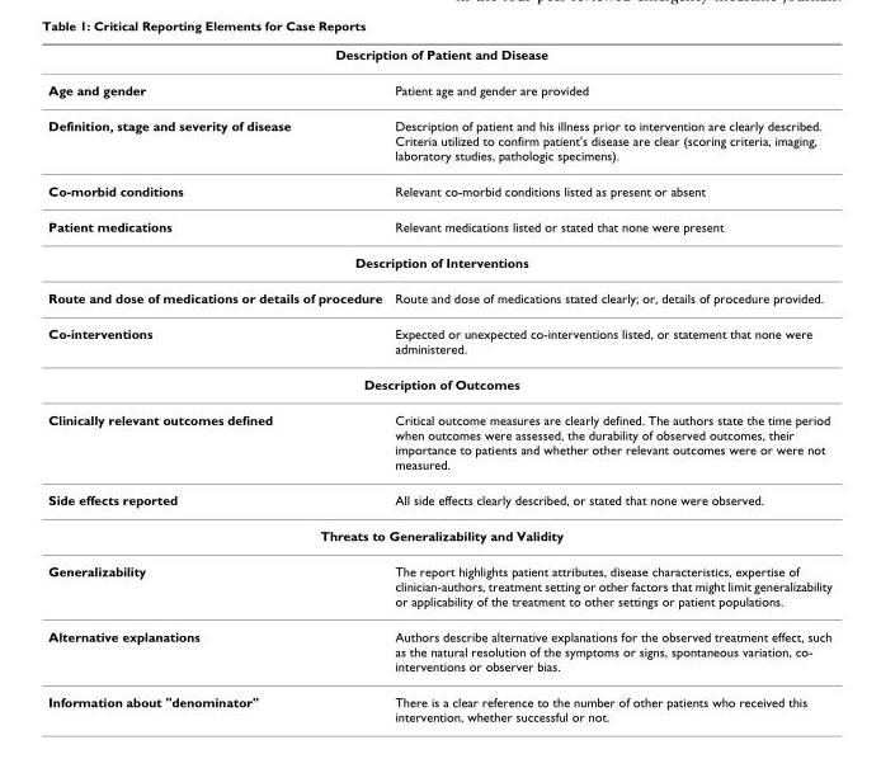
<table><thead><tr><td colspan="2">Description of Patient and Disease</td></tr><tr><td>Age and gender</td><td>Patient age and gender are provided</td></tr></thead><tbody><tr><td>Definition, stage and severity of disease</td><td>Description of patient and his illness prior to intervention are clearly described. Criteria utilized to confirm patient&#x27;s disease are clear (scoring criteria, imaging, laboratory studies, pathologic specimens).</td></tr><tr><td>Co-morbid conditions</td><td>Relevant co-morbid conditions listed as present or absent</td></tr><tr><td>Patient medications</td><td>Relevant medications listed or stated that none were present</td></tr><tr><td colspan="2">Description of Interventions</td></tr><tr><td>Route and dose of medications or details of procedure</td><td>Route and dose of medications stated clearly; or, details of procedure provided.</td></tr><tr><td>Co-interventions</td><td>Expected or unexpected co-interventions listed, or statement that none were administered.</td></tr><tr><td colspan="2">Description of Outcomes</td></tr><tr><td>Clinically relevant outcomes defined</td><td>Critical outcome measures are clearly defined. The authors state the time period when outcomes were assessed, the durability of observed outcomes, their importance to patients and whether other relevant outcomes were or were not measured.</td></tr><tr><td>Side effects reported</td><td>All side effects clearly described, or stated that none were observed.</td></tr><tr><td colspan="2">Threats to Generalizability and Validity</td></tr><tr><td>Generalizability</td><td>The report highlights patient attributes, disease characteristics, expertise of clinician-authors, treatment setting or other factors that might limit generalizability or applicability of the treatment to other settings or patient populations.</td></tr><tr><td>Alternative explanations</td><td>Authors describe alternative explanations for the observed treatment effect, such as the natural resolution of the symptoms or signs, spontaneous variation, co- interventions or observer bias.</td></tr><tr><td>Information about &quot;denominator&quot;</td><td>There is a clear reference to the number of other patients who received this intervention, whether successful or not.</td></tr></tbody></table>